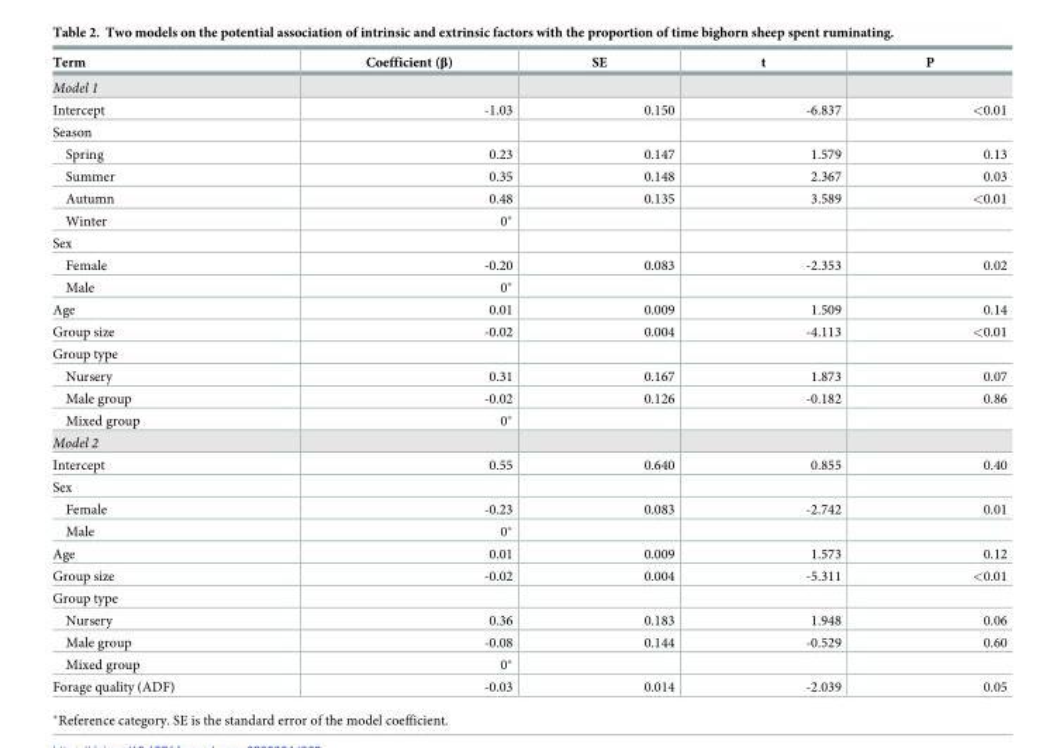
<table><thead><tr><td>Term</td><td>Coefficient (β)</td><td>SE</td><td>t</td><td>P</td></tr></thead><tbody><tr><td colspan="5">Model 1</td></tr><tr><td>Intercept</td><td>-1.03</td><td>0.150</td><td>-6.837</td><td>&lt;0.01</td></tr><tr><td colspan="5">Season</td></tr><tr><td>Spring</td><td>0.23</td><td>0.147</td><td>1.579</td><td>0.13</td></tr><tr><td>Summer</td><td>0.35</td><td>0.148</td><td>2.367</td><td>0.03</td></tr><tr><td>Autumn</td><td>0.48</td><td>0.135</td><td>3.589</td><td>&lt;0.01</td></tr><tr><td>Winter</td><td>0*</td><td></td><td></td><td></td></tr><tr><td colspan="5">Sex</td></tr><tr><td>Female</td><td>-0.20</td><td>0.083</td><td>-2.353</td><td>0.02</td></tr><tr><td>Male</td><td>0*</td><td></td><td></td><td></td></tr><tr><td>Age</td><td>0.01</td><td>0.009</td><td>1.509</td><td>0.14</td></tr><tr><td>Group size</td><td>-0.02</td><td>0.004</td><td>-4.113</td><td>&lt;0.01</td></tr><tr><td colspan="5">Group type</td></tr><tr><td>Nursery</td><td>0.31</td><td>0.167</td><td>1.873</td><td>0.07</td></tr><tr><td>Male group</td><td>-0.02</td><td>0.126</td><td>-0.182</td><td>0.86</td></tr><tr><td>Mixed group</td><td>0*</td><td></td><td></td><td></td></tr><tr><td colspan="5">Model 2</td></tr><tr><td>Intercept</td><td>0.55</td><td>0.640</td><td>0.855</td><td>0.40</td></tr><tr><td colspan="5">Sex</td></tr><tr><td>Female</td><td>-0.23</td><td>0.083</td><td>-2.742</td><td>0.01</td></tr><tr><td>Male</td><td>0*</td><td></td><td></td><td></td></tr><tr><td>Age</td><td>0.01</td><td>0.009</td><td>1.573</td><td>0.12</td></tr><tr><td>Group size</td><td>-0.02</td><td>0.004</td><td>-5.311</td><td>&lt;0.01</td></tr><tr><td colspan="5">Group type</td></tr><tr><td>Nursery</td><td>0.36</td><td>0.183</td><td>1.948</td><td>0.06</td></tr><tr><td>Male group</td><td>-0.08</td><td>0.144</td><td>-0.529</td><td>0.60</td></tr><tr><td>Mixed group</td><td>0*</td><td></td><td></td><td></td></tr><tr><td>Forage quality (ADF)</td><td>-0.03</td><td>0.014</td><td>-2.039</td><td>0.05</td></tr></tbody></table>